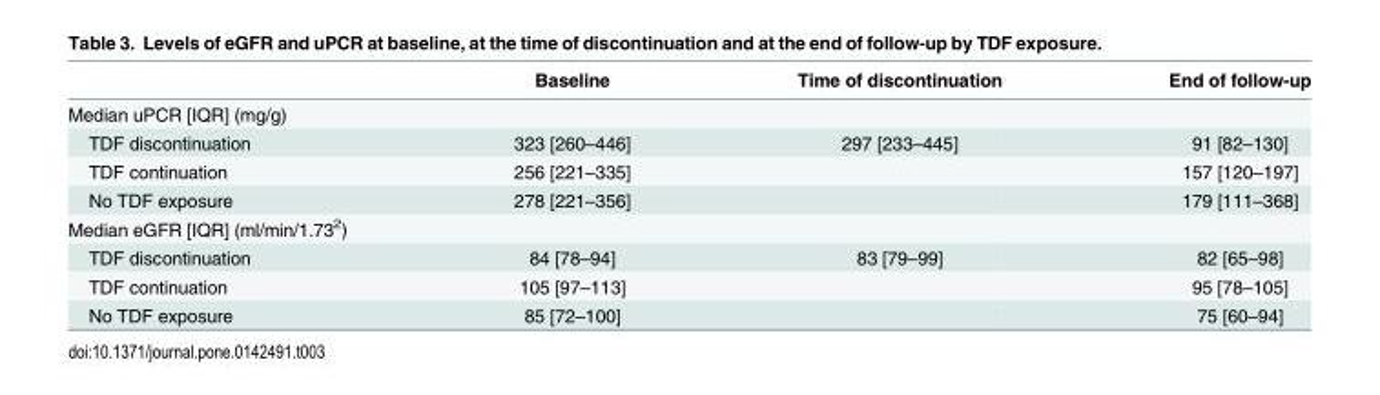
<table><thead><tr><td></td><td>Baseline</td><td>Time of discontinuation</td><td>End of follow-up</td></tr></thead><tbody><tr><td colspan="4">Median uPCR [IQR] (mg/g)</td></tr><tr><td>TDF discontinuation</td><td>323 [260–446]</td><td>297 [233–445]</td><td>91 [82–130]</td></tr><tr><td>TDF continuation</td><td>256 [221–335]</td><td></td><td>157 [120–197]</td></tr><tr><td>No TDF exposure</td><td>278 [221–356]</td><td></td><td>179 [111–368]</td></tr><tr><td colspan="4">Median eGFR [IQR] (ml/min/1.73<sup>2</sup>)</td></tr><tr><td>TDF discontinuation</td><td>84 [78–94]</td><td>83 [79–99]</td><td>82 [65–98]</td></tr><tr><td>TDF continuation</td><td>105 [97–113]</td><td></td><td>95 [78–105]</td></tr><tr><td>No TDF exposure</td><td>85 [72–100]</td><td></td><td>75 [60–94]</td></tr></tbody></table>